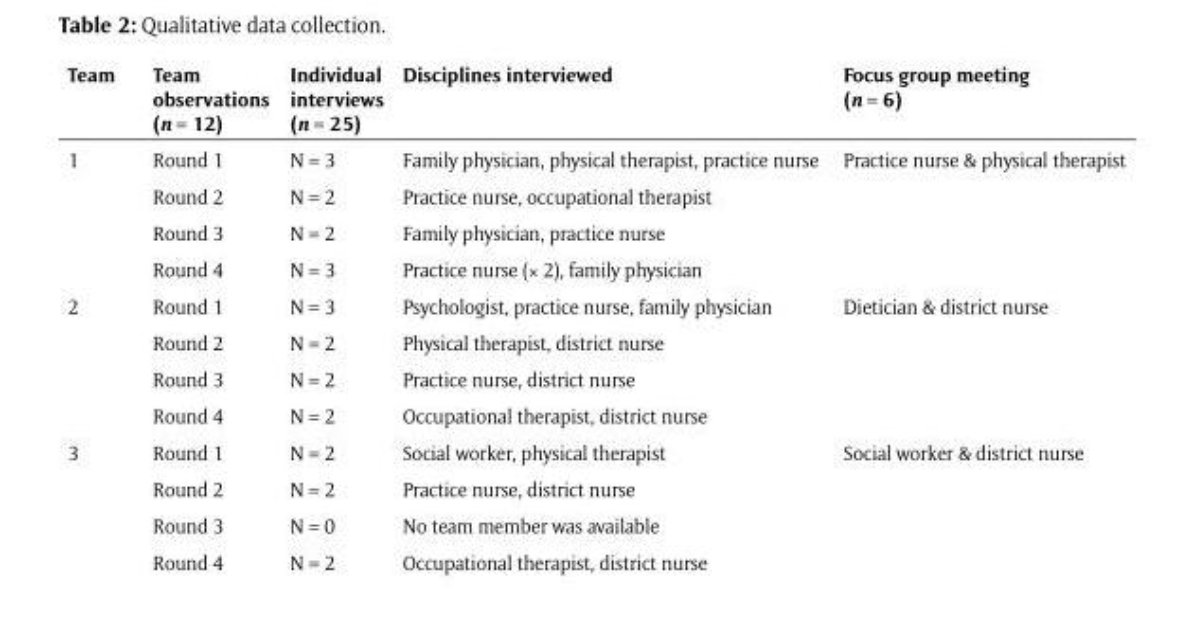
<table><thead><tr><td>Team</td><td>Team observations (n = 12)</td><td>Individual interviews (n = 25)</td><td>Disciplines interviewed</td><td>Focus group meeting (n = 6)</td></tr></thead><tbody><tr><td rowspan="4">1</td><td>Round 1</td><td>N = 3</td><td>Family physician, physical therapist, practice nurse</td><td>Practice nurse &amp; physical therapist</td></tr><tr><td>Round 2</td><td>N = 2</td><td>Practice nurse, occupational therapist</td><td></td></tr><tr><td>Round 3</td><td>N = 2</td><td>Family physician, practice nurse</td><td></td></tr><tr><td>Round 4</td><td>N = 3</td><td>Practice nurse (× 2), family physician</td><td></td></tr><tr><td rowspan="4">2</td><td>Round 1</td><td>N = 3</td><td>Psychologist, practice nurse, family physician</td><td>Dietician &amp; district nurse</td></tr><tr><td>Round 2</td><td>N = 2</td><td>Physical therapist, district nurse</td><td></td></tr><tr><td>Round 3</td><td>N = 2</td><td>Practice nurse, district nurse</td><td></td></tr><tr><td>Round 4</td><td>N = 2</td><td>Occupational therapist, district nurse</td><td></td></tr><tr><td rowspan="4">3</td><td>Round 1</td><td>N = 2</td><td>Social worker, physical therapist</td><td>Social worker &amp; district nurse</td></tr><tr><td>Round 2</td><td>N = 2</td><td>Practice nurse, district nurse</td><td></td></tr><tr><td>Round 3</td><td>N = 0</td><td>No team member was available</td><td></td></tr><tr><td>Round 4</td><td>N = 2</td><td>Occupational therapist, district nurse</td><td></td></tr></tbody></table>